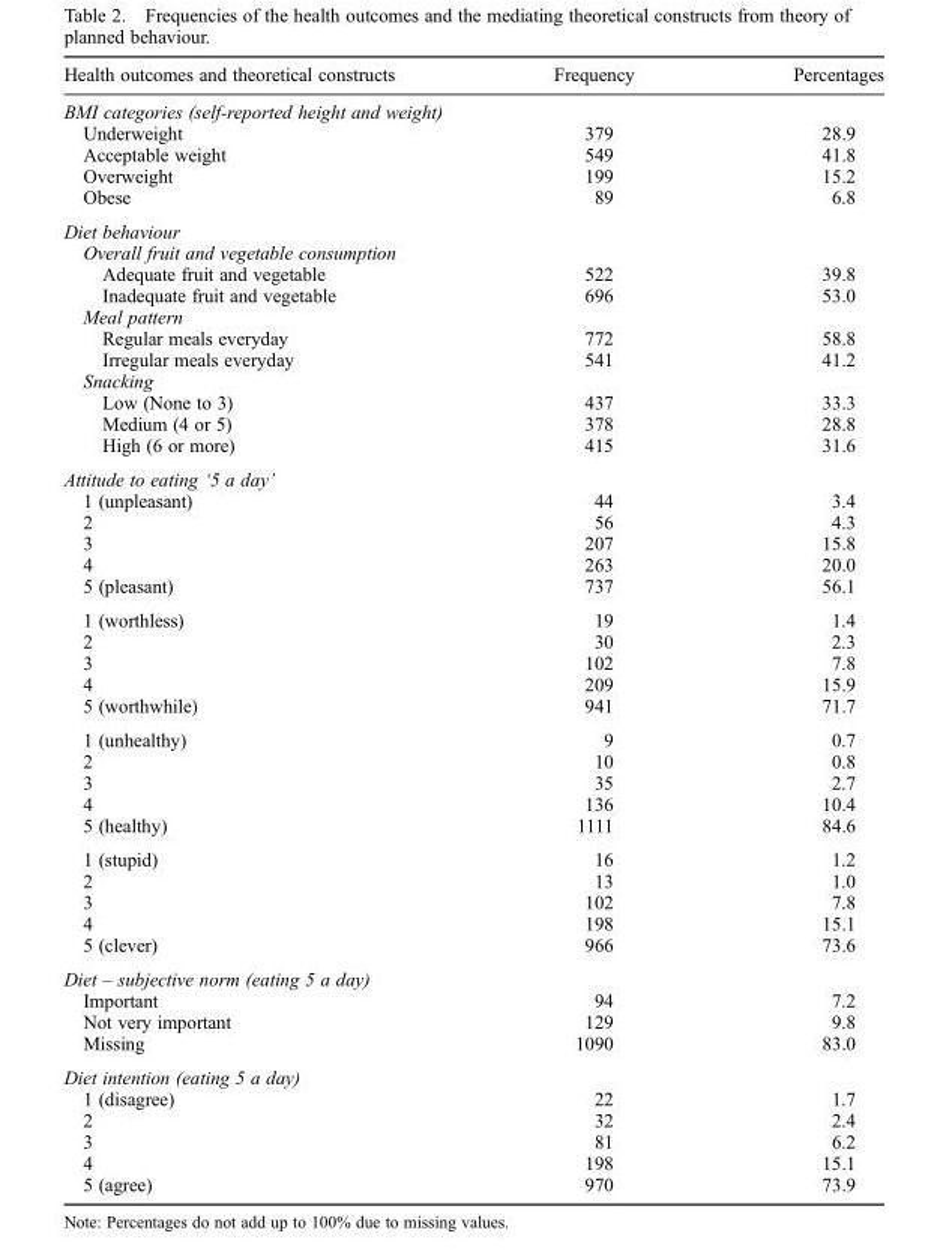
<table><thead><tr><td>Health outcomes and theoretical constructs</td><td>Frequency</td><td>Percentages</td></tr></thead><tbody><tr><td colspan="3">BMI categories (self-reported height and weight)</td></tr><tr><td>Underweight</td><td>379</td><td>28.9</td></tr><tr><td>Acceptable weight</td><td>549</td><td>41.8</td></tr><tr><td>Overweight</td><td>199</td><td>15.2</td></tr><tr><td>Obese</td><td>89</td><td>6.8</td></tr><tr><td colspan="3">Diet behaviour</td></tr><tr><td colspan="3">Overall fruit and vegetable consumption</td></tr><tr><td>Adequate fruit and vegetable</td><td>522</td><td>39.8</td></tr><tr><td>Inadequate fruit and vegetable</td><td>696</td><td>53.0</td></tr><tr><td colspan="3">Meal pattern</td></tr><tr><td>Regular meals everyday</td><td>772</td><td>58.8</td></tr><tr><td>Irregular meals everyday</td><td>541</td><td>41.2</td></tr><tr><td colspan="3">Snacking</td></tr><tr><td>Low (None to 3)</td><td>437</td><td>33.3</td></tr><tr><td>Medium (4 or 5)</td><td>378</td><td>28.8</td></tr><tr><td>High (6 or more)</td><td>415</td><td>31.6</td></tr><tr><td colspan="3">Attitude to eating ‘5 a day’</td></tr><tr><td>1 (unpleasant)</td><td>44</td><td>3.4</td></tr><tr><td>2</td><td>56</td><td>4.3</td></tr><tr><td>3</td><td>207</td><td>15.8</td></tr><tr><td>4</td><td>263</td><td>20.0</td></tr><tr><td>5 (pleasant)</td><td>737</td><td>56.1</td></tr><tr><td>1 (worthless)</td><td>19</td><td>1.4</td></tr><tr><td>2</td><td>30</td><td>2.3</td></tr><tr><td>3</td><td>102</td><td>7.8</td></tr><tr><td>4</td><td>209</td><td>15.9</td></tr><tr><td>5 (worthwhile)</td><td>941</td><td>71.7</td></tr><tr><td>1 (unhealthy)</td><td>9</td><td>0.7</td></tr><tr><td>2</td><td>10</td><td>0.8</td></tr><tr><td>3</td><td>35</td><td>2.7</td></tr><tr><td>4</td><td>136</td><td>10.4</td></tr><tr><td>5 (healthy)</td><td>1111</td><td>84.6</td></tr><tr><td>1 (stupid)</td><td>16</td><td>1.2</td></tr><tr><td>2</td><td>13</td><td>1.0</td></tr><tr><td>3</td><td>102</td><td>7.8</td></tr><tr><td>4</td><td>198</td><td>15.1</td></tr><tr><td>5 (clever)</td><td>966</td><td>73.6</td></tr><tr><td colspan="3">Diet – subjective norm (eating 5 a day)</td></tr><tr><td>Important</td><td>94</td><td>7.2</td></tr><tr><td>Not very important</td><td>129</td><td>9.8</td></tr><tr><td>Missing</td><td>1090</td><td>83.0</td></tr><tr><td colspan="3">Diet intention (eating 5 a day)</td></tr><tr><td>1 (disagree)</td><td>22</td><td>1.7</td></tr><tr><td>2</td><td>32</td><td>2.4</td></tr><tr><td>3</td><td>81</td><td>6.2</td></tr><tr><td>4</td><td>198</td><td>15.1</td></tr><tr><td>5 (agree)</td><td>970</td><td>73.9</td></tr></tbody></table>